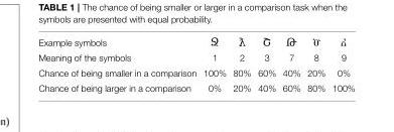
<table><tbody><tr><td colspan="7">Example symbols</td></tr><tr><td>Meaning of the symbols</td><td>1</td><td>2</td><td>3</td><td>7</td><td>8</td><td>9</td></tr><tr><td>Chance of being smaller in a comparison</td><td>100%</td><td>80%</td><td>60%</td><td>40%</td><td>20%</td><td>0%</td></tr><tr><td>Chance of being larger in a comparison</td><td>0%</td><td>20%</td><td>40%</td><td>60%</td><td>80%</td><td>100%</td></tr></tbody></table>